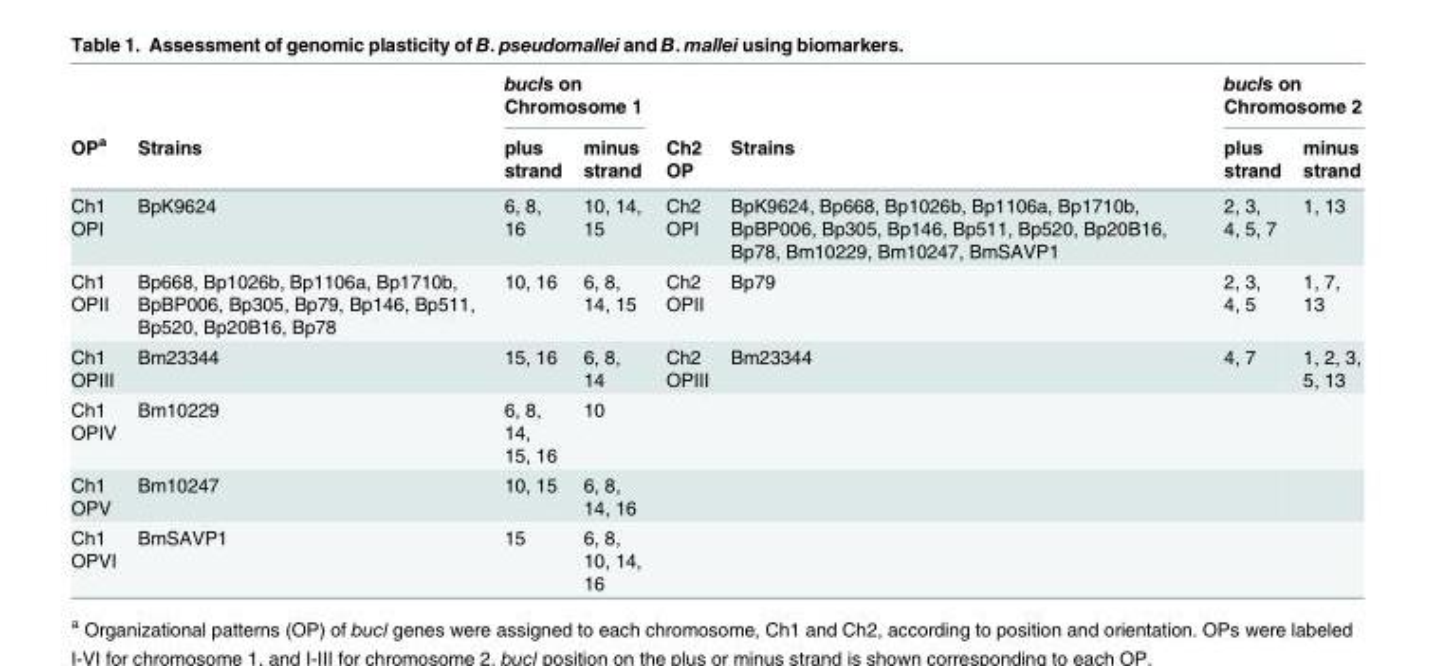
<table><thead><tr><td rowspan="2">OP<sup>a</sup></td><td rowspan="2">Strains</td><td colspan="2">bucls on Chromosome 1</td><td rowspan="2">Ch2 OP</td><td rowspan="2">Strains</td><td colspan="2">bucls on Chromosome 2</td></tr><tr><td>plus strand</td><td>minus strand</td><td>plus strand</td><td>minus strand</td></tr></thead><tbody><tr><td>Ch1 OPI</td><td>BpK9624</td><td>6, 8, 16</td><td>10, 14, 15</td><td>Ch2 OPI</td><td>BpK9624, Bp668, Bp1026b, Bp1106a, Bp1710b, BpBP006, Bp305, Bp146, Bp511, Bp520, Bp20B16, Bp78, Bm10229, Bm10247, BmSAVP1</td><td>2, 3, 4, 5, 7</td><td>1, 13</td></tr><tr><td>Ch1 OPII</td><td>Bp668, Bp1026b, Bp1106a, Bp1710b, BpBP006, Bp305, Bp79, Bp146, Bp511, Bp520, Bp20B16, Bp78</td><td>10, 16</td><td>6, 8, 14, 15</td><td>Ch2 OPII</td><td>Bp79</td><td>2, 3, 4, 5</td><td>1, 7, 13</td></tr><tr><td>Ch1 OPIII</td><td>Bm23344</td><td>15, 16</td><td>6, 8, 14</td><td>Ch2 OPIII</td><td>Bm23344</td><td>4, 7</td><td>1, 2, 3, 5, 13</td></tr><tr><td>Ch1 OPIV</td><td>Bm10229</td><td>6, 8, 14, 15, 16</td><td>10</td><td></td><td></td><td></td><td></td></tr><tr><td>Ch1 OPV</td><td>Bm10247</td><td>10, 15</td><td>6, 8, 14, 16</td><td></td><td></td><td></td><td></td></tr><tr><td>Ch1 OPVI</td><td>BmSAVP1</td><td>15</td><td>6, 8, 10, 14, 16</td><td></td><td></td><td></td><td></td></tr></tbody></table>